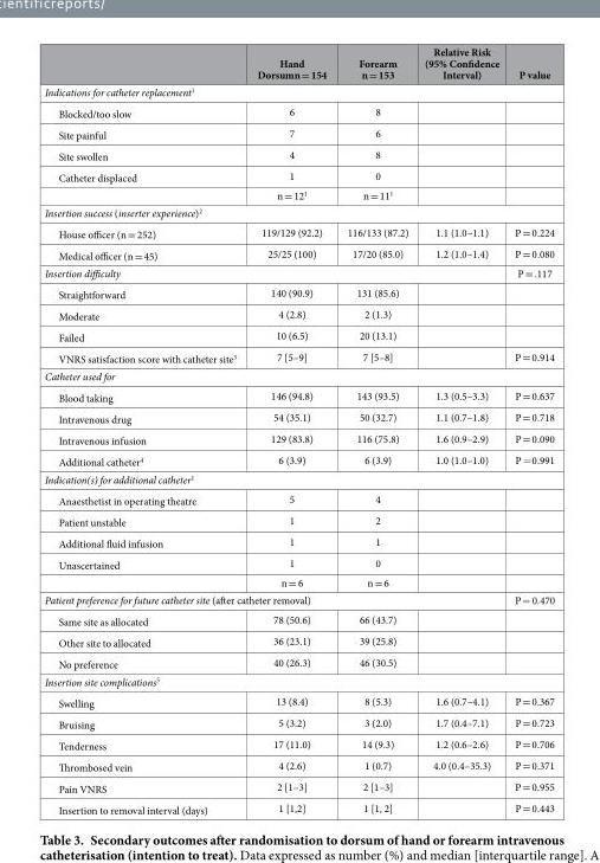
<table><thead><tr><td></td><td>Hand Dorsumn = 154</td><td>Forearm n = 153</td><td>Relative Risk (95% Confidence Interval)</td><td>P value</td></tr></thead><tbody><tr><td colspan="5">Indications for catheter replacement<sup>1</sup></td></tr><tr><td>Blocked/too slow</td><td>6</td><td>8</td><td></td><td></td></tr><tr><td>Site painful</td><td>7</td><td>6</td><td></td><td></td></tr><tr><td>Site swollen</td><td>4</td><td>8</td><td></td><td></td></tr><tr><td rowspan="2">Catheter displaced</td><td>1</td><td>0</td><td></td><td></td></tr><tr><td>n = 12<sup>1</sup></td><td>n = 11<sup>1</sup></td><td></td><td></td></tr><tr><td colspan="5">Insertion success (inserter experience)<sup>2</sup></td></tr><tr><td>House officer (n = 252)</td><td>119/129 (92.2)</td><td>116/133 (87.2)</td><td>1.1 (1.0–1.1)</td><td>P = 0.224</td></tr><tr><td>Medical officer (n = 45)</td><td>25/25 (100)</td><td>17/20 (85.0)</td><td>1.2 (1.0–1.4)</td><td>P = 0.080</td></tr><tr><td colspan="4">Insertion difficulty</td><td>P = .117</td></tr><tr><td>Straightforward</td><td>140 (90.9)</td><td>131 (85.6)</td><td></td><td></td></tr><tr><td>Moderate</td><td>4 (2.8)</td><td>2 (1.3)</td><td></td><td></td></tr><tr><td>Failed</td><td>10 (6.5)</td><td>20 (13.1)</td><td></td><td></td></tr><tr><td>VNRS satisfaction score with catheter site<sup>3</sup></td><td>7 [5–9]</td><td>7 [5–8]</td><td></td><td>P = 0.914</td></tr><tr><td colspan="5">Catheter used for</td></tr><tr><td>Blood taking</td><td>146 (94.8)</td><td>143 (93.5)</td><td>1.3 (0.5–3.3)</td><td>P = 0.637</td></tr><tr><td>Intravenous drug</td><td>54 (35.1)</td><td>50 (32.7)</td><td>1.1 (0.7–1.8)</td><td>P = 0.718</td></tr><tr><td>Intravenous infusion</td><td>129 (83.8)</td><td>116 (75.8)</td><td>1.6 (0.9–2.9)</td><td>P = 0.090</td></tr><tr><td>Additional catheter<sup>4</sup></td><td>6 (3.9)</td><td>6 (3.9)</td><td>1.0 (1.0–1.0)</td><td>P = 0.991</td></tr><tr><td colspan="5">Indication(s) for additional catheter<sup>1</sup></td></tr><tr><td>Anaesthetist in operating theatre</td><td>5</td><td>4</td><td></td><td></td></tr><tr><td>Patient unstable</td><td>1</td><td>2</td><td></td><td></td></tr><tr><td>Additional fluid infusion</td><td>1</td><td>1</td><td></td><td></td></tr><tr><td rowspan="2">Unascertained</td><td>1</td><td>0</td><td></td><td></td></tr><tr><td>n = 6</td><td>n = 6</td><td></td><td></td></tr><tr><td colspan="4">Patient preference for future catheter site (after catheter removal)</td><td>P = 0.470</td></tr><tr><td>Same site as allocated</td><td>78 (50.6)</td><td>66 (43.7)</td><td></td><td></td></tr><tr><td>Other site to allocated</td><td>36 (23.1)</td><td>39 (25.8)</td><td></td><td></td></tr><tr><td>No preference</td><td>40 (26.3)</td><td>46 (30.5)</td><td></td><td></td></tr><tr><td colspan="5">Insertion site complications<sup>5</sup></td></tr><tr><td>Swelling</td><td>13 (8.4)</td><td>8 (5.3)</td><td>1.6 (0.7–4.1)</td><td>P = 0.367</td></tr><tr><td>Bruising</td><td>5 (3.2)</td><td>3 (2.0)</td><td>1.7 (0.4–7.1)</td><td>P = 0.723</td></tr><tr><td>Tenderness</td><td>17 (11.0)</td><td>14 (9.3)</td><td>1.2 (0.6–2.6)</td><td>P = 0.706</td></tr><tr><td>Thrombosed vein</td><td>4 (2.6)</td><td>1 (0.7)</td><td>4.0 (0.4–35.3)</td><td>P = 0.371</td></tr><tr><td>Pain VNRS</td><td>2 [1–3]</td><td>2 [1–3]</td><td></td><td>P = 0.955</td></tr><tr><td>Insertion to removal interval (days)</td><td>1 [1,2]</td><td>1 [1, 2]</td><td></td><td>P = 0.443</td></tr></tbody></table>